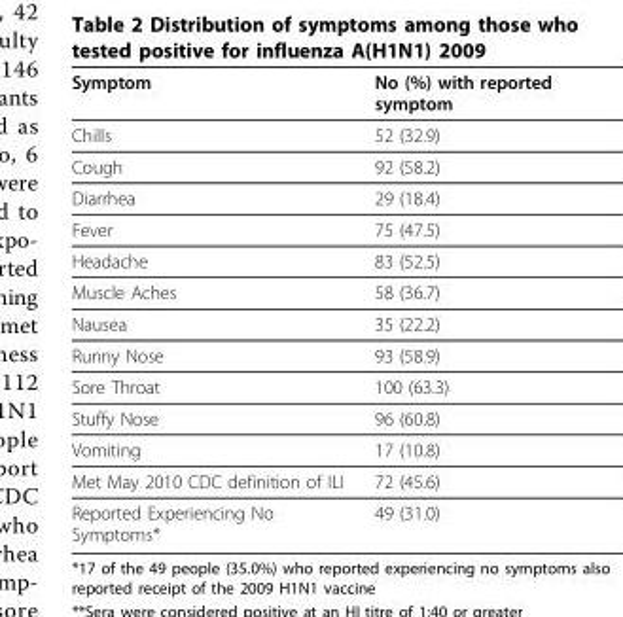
<table><thead><tr><td>Symptom</td><td>No (%) with reported symptom</td></tr></thead><tbody><tr><td>Chills</td><td>52 (32.9)</td></tr><tr><td>Cough</td><td>92 (58.2)</td></tr><tr><td>Diarrhea</td><td>29 (18.4)</td></tr><tr><td>Fever</td><td>75 (47.5)</td></tr><tr><td>Headache</td><td>83 (52.5)</td></tr><tr><td>Muscle Aches</td><td>58 (36.7)</td></tr><tr><td>Nausea</td><td>35 (22.2)</td></tr><tr><td>Runny Nose</td><td>93 (58.9)</td></tr><tr><td>Sore Throat</td><td>100 (63.3)</td></tr><tr><td>Stuffy Nose</td><td>96 (60.8)</td></tr><tr><td>Vomiting</td><td>17 (10.8)</td></tr><tr><td>Met May 2010 CDC definition of ILI</td><td>72 (45.6)</td></tr><tr><td>Reported Experiencing No Symptoms*</td><td>49 (31.0)</td></tr></tbody></table>